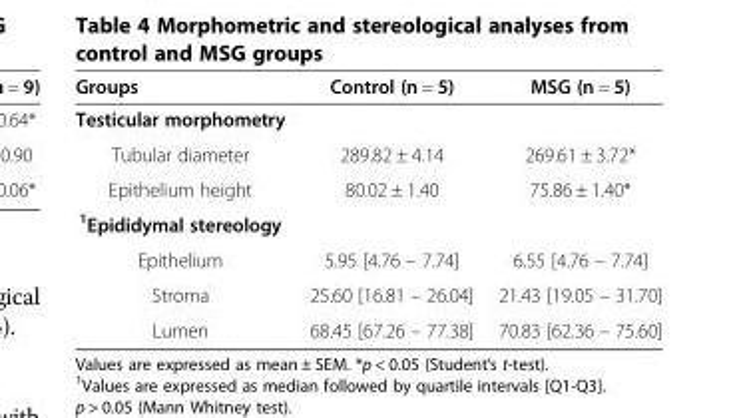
<table><thead><tr><td>Groups</td><td>Control (n = 5)</td><td>MSG (n = 5)</td></tr></thead><tbody><tr><td colspan="3">Testicular morphometry</td></tr><tr><td>Tubular diameter</td><td>289.82 ± 4.14</td><td>269.61 ± 3.72*</td></tr><tr><td>Epithelium height</td><td>80.02 ± 1.40</td><td>75.86 ± 1.40*</td></tr><tr><td colspan="3"><sup>1</sup>Epididymal stereology</td></tr><tr><td>Epithelium</td><td>5.95 [4.76 – 7.74]</td><td>6.55 [4.76 – 7.74]</td></tr><tr><td>Stroma</td><td>25.60 [16.81 – 26.04]</td><td>21.43 [19.05 – 31.70]</td></tr><tr><td>Lumen</td><td>68.45 [67.26 – 77.38]</td><td>70.83 [62.36 – 75.60]</td></tr></tbody></table>